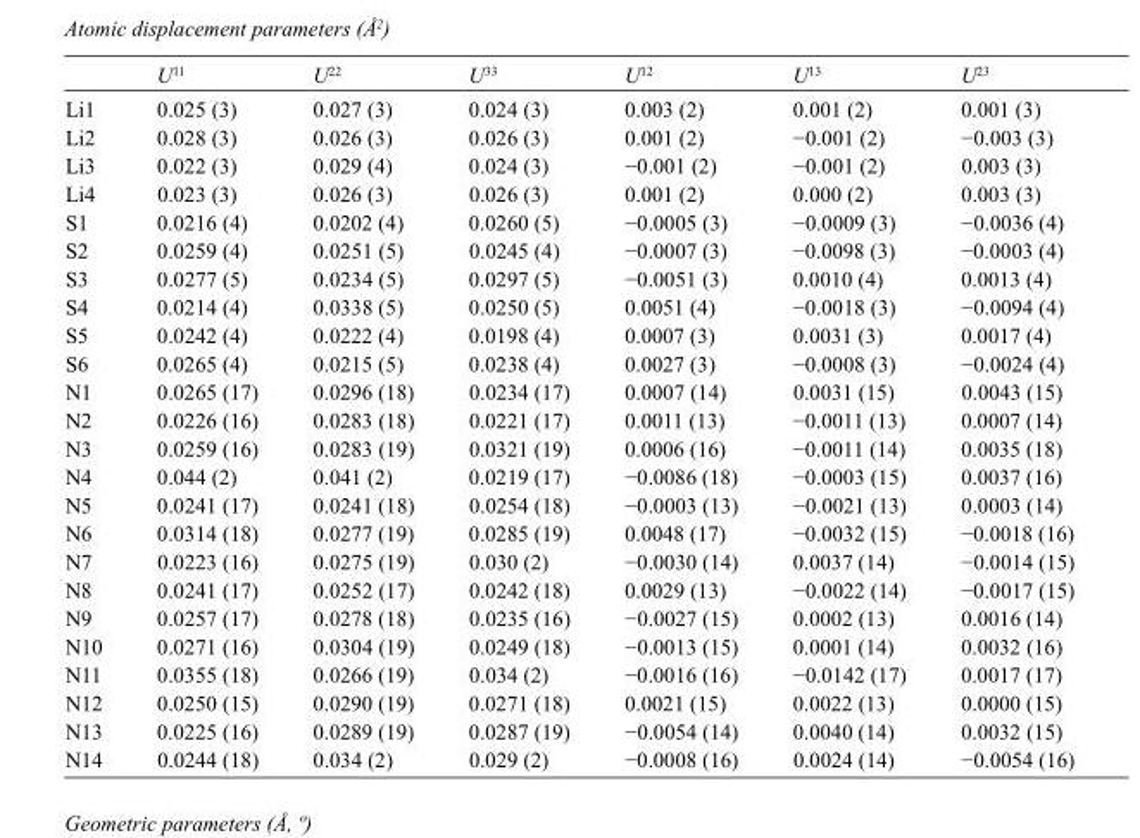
<table><thead><tr><td></td><td>U<sup>11</sup></td><td>U<sup>22</sup></td><td>U<sup>33</sup></td><td>U<sup>12</sup></td><td>U<sup>13</sup></td><td>U<sup>23</sup></td></tr></thead><tbody><tr><td>Li1</td><td>0.025 (3)</td><td>0.027 (3)</td><td>0.024 (3)</td><td>0.003 (2)</td><td>0.001 (2)</td><td>0.001 (3)</td></tr><tr><td>Li2</td><td>0.028 (3)</td><td>0.026 (3)</td><td>0.026 (3)</td><td>0.001 (2)</td><td>−0.001 (2)</td><td>−0.003 (3)</td></tr><tr><td>Li3</td><td>0.022 (3)</td><td>0.029 (4)</td><td>0.024 (3)</td><td>−0.001 (2)</td><td>−0.001 (2)</td><td>0.003 (3)</td></tr><tr><td>Li4</td><td>0.023 (3)</td><td>0.026 (3)</td><td>0.026 (3)</td><td>0.001 (2)</td><td>0.000 (2)</td><td>0.003 (3)</td></tr><tr><td>S1</td><td>0.0216 (4)</td><td>0.0202 (4)</td><td>0.0260 (5)</td><td>−0.0005 (3)</td><td>−0.0009 (3)</td><td>−0.0036 (4)</td></tr><tr><td>S2</td><td>0.0259 (4)</td><td>0.0251 (5)</td><td>0.0245 (4)</td><td>−0.0007 (3)</td><td>−0.0098 (3)</td><td>−0.0003 (4)</td></tr><tr><td>S3</td><td>0.0277 (5)</td><td>0.0234 (5)</td><td>0.0297 (5)</td><td>−0.0051 (3)</td><td>0.0010 (4)</td><td>0.0013 (4)</td></tr><tr><td>S4</td><td>0.0214 (4)</td><td>0.0338 (5)</td><td>0.0250 (5)</td><td>0.0051 (4)</td><td>−0.0018 (3)</td><td>−0.0094 (4)</td></tr><tr><td>S5</td><td>0.0242 (4)</td><td>0.0222 (4)</td><td>0.0198 (4)</td><td>0.0007 (3)</td><td>0.0031 (3)</td><td>0.0017 (4)</td></tr><tr><td>S6</td><td>0.0265 (4)</td><td>0.0215 (5)</td><td>0.0238 (4)</td><td>0.0027 (3)</td><td>−0.0008 (3)</td><td>−0.0024 (4)</td></tr><tr><td>N1</td><td>0.0265 (17)</td><td>0.0296 (18)</td><td>0.0234 (17)</td><td>0.0007 (14)</td><td>0.0031 (15)</td><td>0.0043 (15)</td></tr><tr><td>N2</td><td>0.0226 (16)</td><td>0.0283 (18)</td><td>0.0221 (17)</td><td>0.0011 (13)</td><td>−0.0011 (13)</td><td>0.0007 (14)</td></tr><tr><td>N3</td><td>0.0259 (16)</td><td>0.0283 (19)</td><td>0.0321 (19)</td><td>0.0006 (16)</td><td>−0.0011 (14)</td><td>0.0035 (18)</td></tr><tr><td>N4</td><td>0.044 (2)</td><td>0.041 (2)</td><td>0.0219 (17)</td><td>−0.0086 (18)</td><td>−0.0003 (15)</td><td>0.0037 (16)</td></tr><tr><td>N5</td><td>0.0241 (17)</td><td>0.0241 (18)</td><td>0.0254 (18)</td><td>−0.0003 (13)</td><td>−0.0021 (13)</td><td>0.0003 (14)</td></tr><tr><td>N6</td><td>0.0314 (18)</td><td>0.0277 (19)</td><td>0.0285 (19)</td><td>0.0048 (17)</td><td>−0.0032 (15)</td><td>−0.0018 (16)</td></tr><tr><td>N7</td><td>0.0223 (16)</td><td>0.0275 (19)</td><td>0.030 (2)</td><td>−0.0030 (14)</td><td>0.0037 (14)</td><td>−0.0014 (15)</td></tr><tr><td>N8</td><td>0.0241 (17)</td><td>0.0252 (17)</td><td>0.0242 (18)</td><td>0.0029 (13)</td><td>−0.0022 (14)</td><td>−0.0017 (15)</td></tr><tr><td>N9</td><td>0.0257 (17)</td><td>0.0278 (18)</td><td>0.0235 (16)</td><td>−0.0027 (15)</td><td>0.0002 (13)</td><td>0.0016 (14)</td></tr><tr><td>N10</td><td>0.0271 (16)</td><td>0.0304 (19)</td><td>0.0249 (18)</td><td>−0.0013 (15)</td><td>0.0001 (14)</td><td>0.0032 (16)</td></tr><tr><td>N11</td><td>0.0355 (18)</td><td>0.0266 (19)</td><td>0.034 (2)</td><td>−0.0016 (16)</td><td>−0.0142 (17)</td><td>0.0017 (17)</td></tr><tr><td>N12</td><td>0.0250 (15)</td><td>0.0290 (19)</td><td>0.0271 (18)</td><td>0.0021 (15)</td><td>0.0022 (13)</td><td>0.0000 (15)</td></tr><tr><td>N13</td><td>0.0225 (16)</td><td>0.0289 (19)</td><td>0.0287 (19)</td><td>−0.0054 (14)</td><td>0.0040 (14)</td><td>0.0032 (15)</td></tr><tr><td>N14</td><td>0.0244 (18)</td><td>0.034 (2)</td><td>0.029 (2)</td><td>−0.0008 (16)</td><td>0.0024 (14)</td><td>−0.0054 (16)</td></tr></tbody></table>